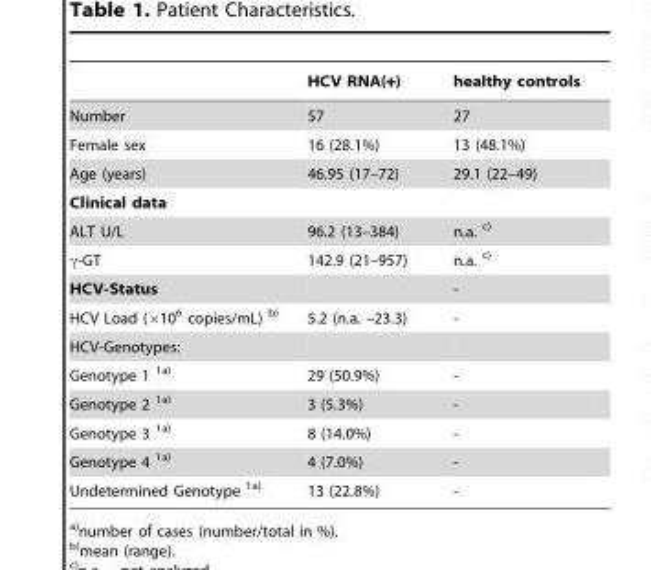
<table><thead><tr><td></td><td>HCV RNA(+)</td><td>healthy controls</td></tr></thead><tbody><tr><td>Number</td><td>57</td><td>27</td></tr><tr><td>Female sex</td><td>16 (28.1%)</td><td>13 (48.1%)</td></tr><tr><td>Age (years)</td><td>46.95 (17–72)</td><td>29.1 (22–49)</td></tr><tr><td colspan="3">Clinical data</td></tr><tr><td>ALT U/L</td><td>96.2 (13–384)</td><td>n.a. c)</td></tr><tr><td>γ-GT</td><td>142.9 (21–957)</td><td>n.a. c)</td></tr><tr><td>HCV-Status</td><td></td><td>-</td></tr><tr><td>HCV Load (×10<sup>6</sup> copies/mL) b)</td><td>5.2 (n.a. –23.3)</td><td>-</td></tr><tr><td colspan="3">HCV-Genotypes:</td></tr><tr><td>Genotype 1 <sup>1a)</sup></td><td>29 (50.9%)</td><td>-</td></tr><tr><td>Genotype 2 <sup>1a)</sup></td><td>3 (5.3%)</td><td>-</td></tr><tr><td>Genotype 3 <sup>1a)</sup></td><td>8 (14.0%)</td><td>-</td></tr><tr><td>Genotype 4 <sup>1a)</sup></td><td>4 (7.0%)</td><td>-</td></tr><tr><td>Undetermined Genotype <sup>1a)</sup></td><td>13 (22.8%)</td><td>-</td></tr></tbody></table>